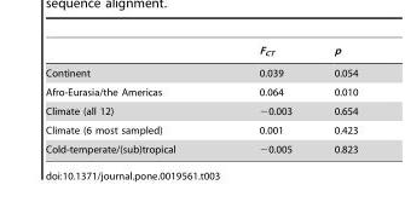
<table><thead><tr><td></td><td>F<sub>CT</sub></td><td>p</td></tr></thead><tbody><tr><td>Continent</td><td>0.039</td><td>0.054</td></tr><tr><td>Afro-Eurasia/the Americas</td><td>0.064</td><td>0.010</td></tr><tr><td>Climate (all 12)</td><td>−0.003</td><td>0.654</td></tr><tr><td>Climate (6 most sampled)</td><td>0.001</td><td>0.423</td></tr><tr><td>Cold-temperate/(sub)tropical</td><td>−0.005</td><td>0.823</td></tr></tbody></table>